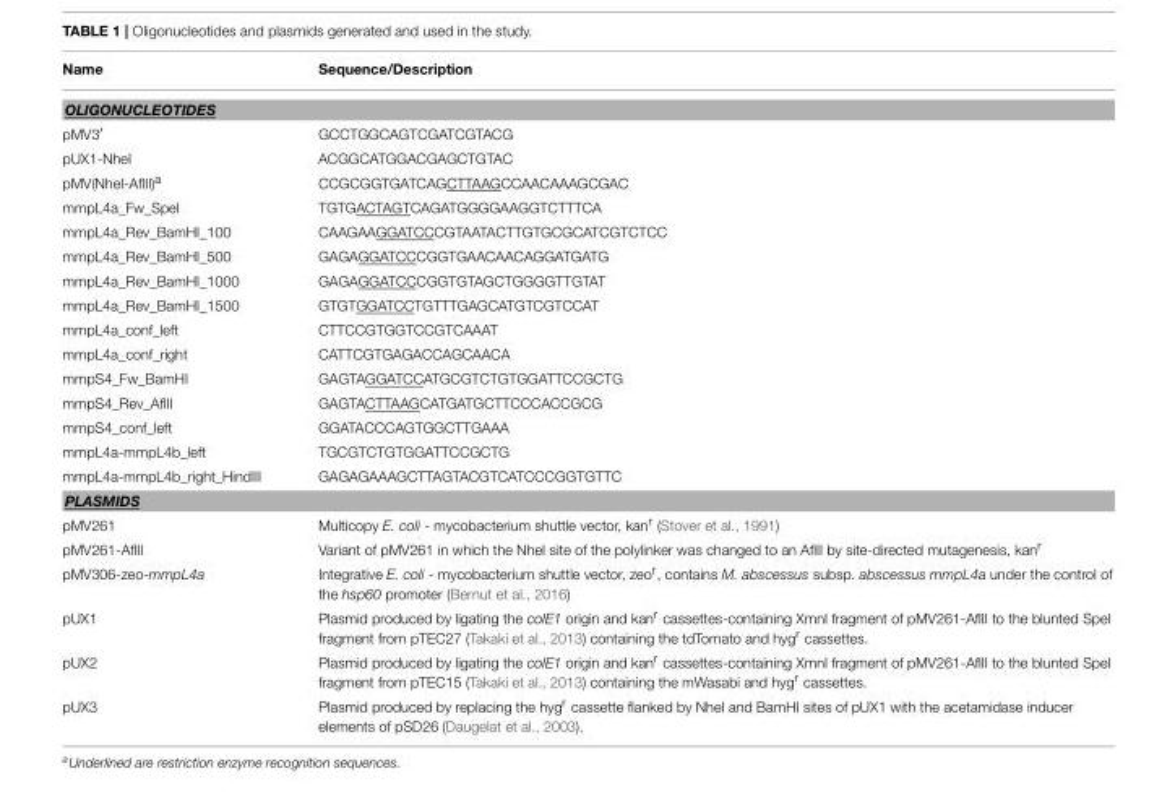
<table><thead><tr><td>Name</td><td>Sequence/Description</td></tr></thead><tbody><tr><td colspan="2">OLIGONUCLEOTIDES</td></tr><tr><td>pMV3′</td><td>GCCTGGCAGTCGATCGTACG</td></tr><tr><td>pUX1-NheI</td><td>ACGGCATGGACGAGCTGTAC</td></tr><tr><td>pMV(NheI-AflII)<sup>a</sup></td><td>CCGCGGTGATCAGCTTAAGCCAACAAAGCGAC</td></tr><tr><td>mmpL4a_Fw_SpeI</td><td>TGTGACTAGTCAGATGGGGAAGGTCTTTCA</td></tr><tr><td>mmpL4a_Rev_BamHI_100</td><td>CAAGAAGGATCCCGTAATACTTGTGCGCATCGTCTCC</td></tr><tr><td>mmpL4a_Rev_BamHI_500</td><td>GAGAGGATCCCGGTGAACAACAGGATGATG</td></tr><tr><td>mmpL4a_Rev_BamHI_1000</td><td>GAGAGGATCCCGGTGTAGCTGGGGTTGTAT</td></tr><tr><td>mmpL4a_Rev_BamHI_1500</td><td>GTGTGGATCCTGTTTGAGCATGTCGTCCAT</td></tr><tr><td>mmpL4a_conf_left</td><td>CTTCCGTGGTCCGTCAAAT</td></tr><tr><td>mmpL4a_conf_right</td><td>CATTCGTGAGACCAGCAACA</td></tr><tr><td>mmpS4_Fw_BamHI</td><td>GAGTAGGATCCATGCGTCTGTGGATTCCGCTG</td></tr><tr><td>mmpS4_Rev_AflII</td><td>GAGTACTTAAGCATGATGCTTCCCACCGCG</td></tr><tr><td>mmpS4_conf_left</td><td>GGATACCCAGTGGCTTGAAA</td></tr><tr><td>mmpL4a-mmpL4b_left</td><td>TGCGTCTGTGGATTCCGCTG</td></tr><tr><td>mmpL4a-mmpL4b_right_HindIII</td><td>GAGAGAAAGCTTAGTACGTCATCCCGGTGTTC</td></tr><tr><td colspan="2">PLASMIDS</td></tr><tr><td>pMV261</td><td>Multicopy E. coli - mycobacterium shuttle vector, kan<sup>r</sup> (Stover et al., 1991)</td></tr><tr><td>pMV261-AflII</td><td>Variant of pMV261 in which the NheI site of the polylinker was changed to an AflII by site-directed mutagenesis, kan<sup>r</sup></td></tr><tr><td>pMV306-zeo-mmpL4a</td><td>Integrative E. coli - mycobacterium shuttle vector, zeo<sup>r</sup>, contains M. abscessus subsp. abscessus mmpL4a under the control of the hsp60 promoter (Bernut et al., 2016)</td></tr><tr><td>pUX1</td><td>Plasmid produced by ligating the colE1 origin and kan<sup>r</sup> cassettes-containing XmnI fragment of pMV261-AflII to the blunted SpeI fragment from pTEC27 (Takaki et al., 2013) containing the tdTomato and hyg<sup>r</sup> cassettes.</td></tr><tr><td>pUX2</td><td>Plasmid produced by ligating the colE1 origin and kan<sup>r</sup> cassettes-containing XmnI fragment of pMV261-AflII to the blunted SpeI fragment from pTEC15 (Takaki et al., 2013) containing the mWasabi and hyg<sup>r</sup> cassettes.</td></tr><tr><td>pUX3</td><td>Plasmid produced by replacing the hyg<sup>r</sup> cassette flanked by NheI and BamHI sites of pUX1 with the acetamidase inducer elements of pSD26 (Daugelat et al., 2003).</td></tr></tbody></table>